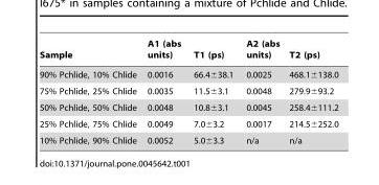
<table><thead><tr><td>Sample</td><td>A1 (abs units)</td><td>T1 (ps)</td><td>A2 (abs units)</td><td>T2 (ps)</td></tr></thead><tbody><tr><td>90% Pchlide, 10% Chlide</td><td>0.0016</td><td>66.4±38.1</td><td>0.0025</td><td>468.1±138.0</td></tr><tr><td>75% Pchlide, 25% Chlide</td><td>0.0035</td><td>11.5±3.1</td><td>0.0048</td><td>279.9±93.2</td></tr><tr><td>50% Pchlide, 50% Chlide</td><td>0.0048</td><td>10.8±3.1</td><td>0.0045</td><td>258.4±111.2</td></tr><tr><td>25% Pchlide, 75% Chlide</td><td>0.0049</td><td>7.0±3.2</td><td>0.0017</td><td>214.5±252.0</td></tr><tr><td>10% Pchlide, 90% Chlide</td><td>0.0052</td><td>5.0±3.3</td><td>n/a</td><td>n/a</td></tr></tbody></table>